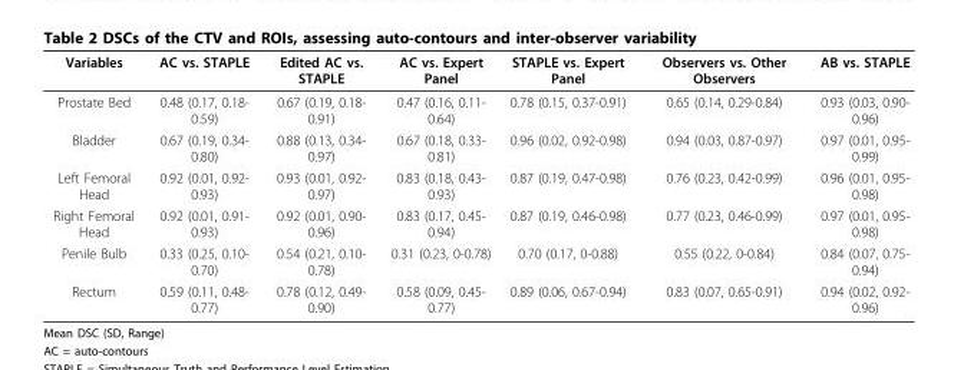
<table><thead><tr><td>Variables</td><td>AC vs. STAPLE</td><td>Edited AC vs. STAPLE</td><td>AC vs. Expert Panel</td><td>STAPLE vs. Expert Panel</td><td>Observers vs. Other Observers</td><td>AB vs. STAPLE</td></tr></thead><tbody><tr><td>Prostate Bed</td><td>0.48 (0.17, 0.18- 0.59)</td><td>0.67 (0.19, 0.18- 0.91)</td><td>0.47 (0.16, 0.11- 0.64)</td><td>0.78 (0.15, 0.37-0.91)</td><td>0.65 (0.14, 0.29-0.84)</td><td>0.93 (0.03, 0.90- 0.96)</td></tr><tr><td>Bladder</td><td>0.67 (0.19, 0.34- 0.80)</td><td>0.88 (0.13, 0.34- 0.97)</td><td>0.67 (0.18, 0.33- 0.81)</td><td>0.96 (0.02, 0.92-0.98)</td><td>0.94 (0.03, 0.87-0.97)</td><td>0.97 (0.01, 0.95- 0.99)</td></tr><tr><td>Left Femoral Head</td><td>0.92 (0.01, 0.92- 0.93)</td><td>0.93 (0.01, 0.92- 0.97)</td><td>0.83 (0.18, 0.43- 0.93)</td><td>0.87 (0.19, 0.47-0.98)</td><td>0.76 (0.23, 0.42-0.99)</td><td>0.96 (0.01, 0.95- 0.98)</td></tr><tr><td>Right Femoral Head</td><td>0.92 (0.01, 0.91- 0.93)</td><td>0.92 (0.01, 0.90- 0.96)</td><td>0.83 (0.17, 0.45- 0.94)</td><td>0.87 (0.19, 0.46-0.98)</td><td>0.77 (0.23, 0.46-0.99)</td><td>0.97 (0.01, 0.95- 0.98)</td></tr><tr><td>Penile Bulb</td><td>0.33 (0.25, 0.10- 0.70)</td><td>0.54 (0.21, 0.10- 0.78)</td><td>0.31 (0.23, 0-0.78)</td><td>0.70 (0.17, 0-0.88)</td><td>0.55 (0.22, 0-0.84)</td><td>0.84 (0.07, 0.75- 0.94)</td></tr><tr><td>Rectum</td><td>0.59 (0.11, 0.48- 0.77)</td><td>0.78 (0.12, 0.49- 0.90)</td><td>0.58 (0.09, 0.45- 0.77)</td><td>0.89 (0.06, 0.67-0.94)</td><td>0.83 (0.07, 0.65-0.91)</td><td>0.94 (0.02, 0.92- 0.96)</td></tr></tbody></table>